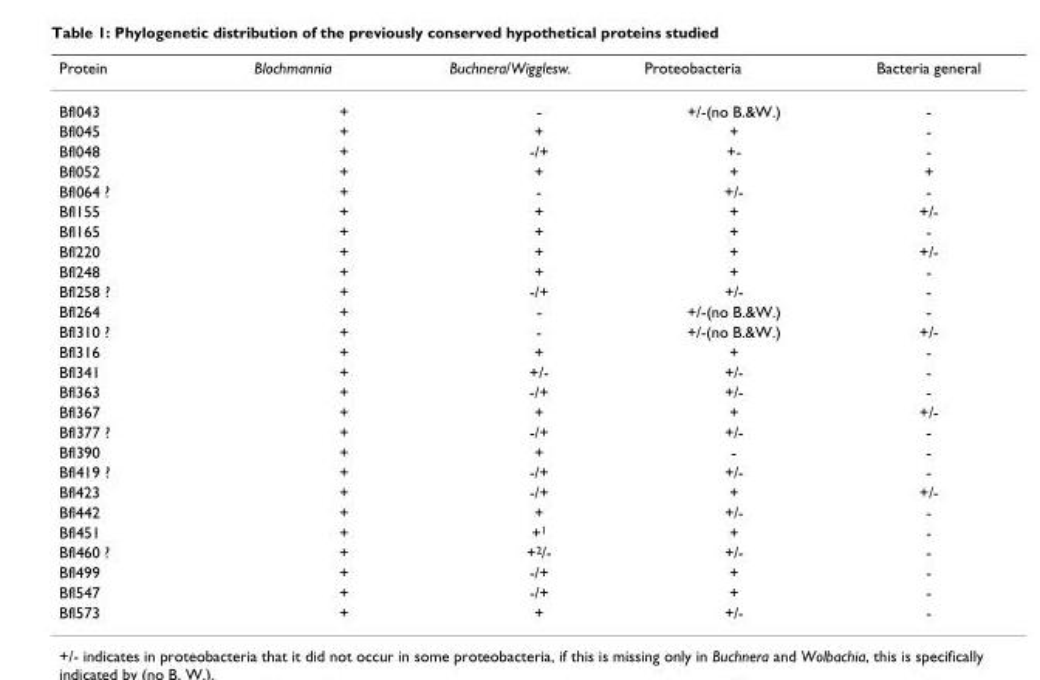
<table><thead><tr><td>Protein</td><td>Blochmannia</td><td>Buchnera/Wigglesw.</td><td>Proteobacteria</td><td>Bacteria general</td></tr></thead><tbody><tr><td>Bfl043</td><td>+</td><td>-</td><td>+/-(no B.&amp;W.)</td><td>-</td></tr><tr><td>Bfl045</td><td>+</td><td>+</td><td>+</td><td>-</td></tr><tr><td>Bfl048</td><td>+</td><td>-/+</td><td>+-</td><td>-</td></tr><tr><td>Bfl052</td><td>+</td><td>+</td><td>+</td><td>+</td></tr><tr><td>Bfl064 ?</td><td>+</td><td>-</td><td>+/-</td><td>-</td></tr><tr><td>Bfl155</td><td>+</td><td>+</td><td>+</td><td>+/-</td></tr><tr><td>Bfl165</td><td>+</td><td>+</td><td>+</td><td>-</td></tr><tr><td>Bfl220</td><td>+</td><td>+</td><td>+</td><td>+/-</td></tr><tr><td>Bfl248</td><td>+</td><td>+</td><td>+</td><td>-</td></tr><tr><td>Bfl258 ?</td><td>+</td><td>-/+</td><td>+/-</td><td>-</td></tr><tr><td>Bfl264</td><td>+</td><td>-</td><td>+/-(no B.&amp;W.)</td><td>-</td></tr><tr><td>Bfl310 ?</td><td>+</td><td>-</td><td>+/-(no B.&amp;W.)</td><td>+/-</td></tr><tr><td>Bfl316</td><td>+</td><td>+</td><td>+</td><td>-</td></tr><tr><td>Bfl341</td><td>+</td><td>+/-</td><td>+/-</td><td>-</td></tr><tr><td>Bfl363</td><td>+</td><td>-/+</td><td>+/-</td><td>-</td></tr><tr><td>Bfl367</td><td>+</td><td>+</td><td>+</td><td>+/-</td></tr><tr><td>Bfl377 ?</td><td>+</td><td>-/+</td><td>+/-</td><td>-</td></tr><tr><td>Bfl390</td><td>+</td><td>+</td><td>-</td><td>-</td></tr><tr><td>Bfl419 ?</td><td>+</td><td>-/+</td><td>+/-</td><td>-</td></tr><tr><td>Bfl423</td><td>+</td><td>-/+</td><td>+</td><td>+/-</td></tr><tr><td>Bfl442</td><td>+</td><td>+</td><td>+/-</td><td>-</td></tr><tr><td>Bfl451</td><td>+</td><td>+1</td><td>+</td><td>-</td></tr><tr><td>Bfl460 ?</td><td>+</td><td>+2/-</td><td>+/-</td><td>-</td></tr><tr><td>Bfl499</td><td>+</td><td>-/+</td><td>+</td><td>-</td></tr><tr><td>Bfl547</td><td>+</td><td>-/+</td><td>+</td><td>-</td></tr><tr><td>Bfl573</td><td>+</td><td>+</td><td>+/-</td><td>-</td></tr></tbody></table>